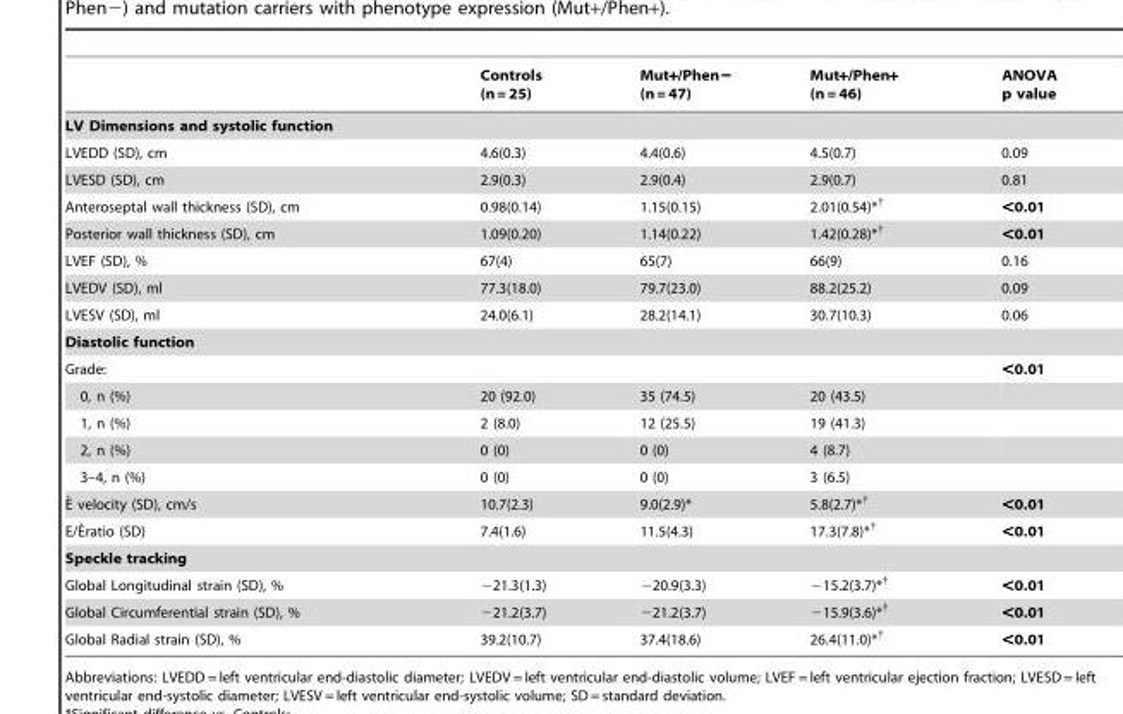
<table><thead><tr><td></td><td>Controls (n = 25)</td><td>Mut+/Phen− (n = 47)</td><td>Mut+/Phen+ (n = 46)</td><td>ANOVA p value</td></tr></thead><tbody><tr><td colspan="5">LV Dimensions and systolic function</td></tr><tr><td>LVEDD (SD), cm</td><td>4.6(0.3)</td><td>4.4(0.6)</td><td>4.5(0.7)</td><td>0.09</td></tr><tr><td>LVESD (SD), cm</td><td>2.9(0.3)</td><td>2.9(0.4)</td><td>2.9(0.7)</td><td>0.81</td></tr><tr><td>Anteroseptal wall thickness (SD), cm</td><td>0.98(0.14)</td><td>1.15(0.15)</td><td>2.01(0.54)*†</td><td>&lt;0.01</td></tr><tr><td>Posterior wall thickness (SD), cm</td><td>1.09(0.20)</td><td>1.14(0.22)</td><td>1.42(0.28)*†</td><td>&lt;0.01</td></tr><tr><td>LVEF (SD), %</td><td>67(4)</td><td>65(7)</td><td>66(9)</td><td>0.16</td></tr><tr><td>LVEDV (SD), ml</td><td>77.3(18.0)</td><td>79.7(23.0)</td><td>88.2(25.2)</td><td>0.09</td></tr><tr><td>LVESV (SD), ml</td><td>24.0(6.1)</td><td>28.2(14.1)</td><td>30.7(10.3)</td><td>0.06</td></tr><tr><td colspan="5">Diastolic function</td></tr><tr><td colspan="4">Grade:</td><td>&lt;0.01</td></tr><tr><td>0, n (%)</td><td>20 (92.0)</td><td>35 (74.5)</td><td>20 (43.5)</td><td></td></tr><tr><td>1, n (%)</td><td>2 (8.0)</td><td>12 (25.5)</td><td>19 (41.3)</td><td></td></tr><tr><td>2, n (%)</td><td>0 (0)</td><td>0 (0)</td><td>4 (8.7)</td><td></td></tr><tr><td>3–4, n (%)</td><td>0 (0)</td><td>0 (0)</td><td>3 (6.5)</td><td></td></tr><tr><td>E` velocity (SD), cm/s</td><td>10.7(2.3)</td><td>9.0(2.9)*</td><td>5.8(2.7)*†</td><td>&lt;0.01</td></tr><tr><td>E/E`ratio (SD)</td><td>7.4(1.6)</td><td>11.5(4.3)</td><td>17.3(7.8)*†</td><td>&lt;0.01</td></tr><tr><td colspan="5">Speckle tracking</td></tr><tr><td>Global Longitudinal strain (SD), %</td><td>−21.3(1.3)</td><td>−20.9(3.3)</td><td>−15.2(3.7)*†</td><td>&lt;0.01</td></tr><tr><td>Global Circumferential strain (SD), %</td><td>−21.2(3.7)</td><td>−21.2(3.7)</td><td>−15.9(3.6)*†</td><td>&lt;0.01</td></tr><tr><td>Global Radial strain (SD), %</td><td>39.2(10.7)</td><td>37.4(18.6)</td><td>26.4(11.0)*†</td><td>&lt;0.01</td></tr></tbody></table>